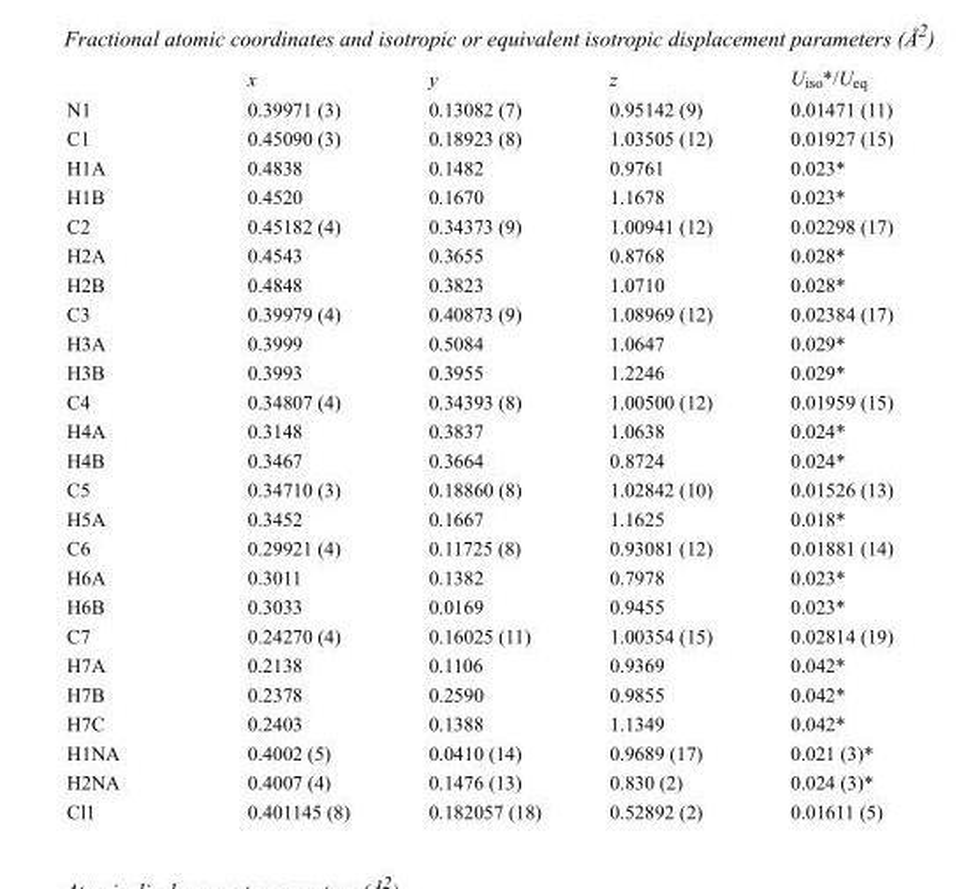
<table><thead><tr><td></td><td>x</td><td>y</td><td>z</td><td>U<sub>iso</sub>*/U<sub>eq</sub></td></tr></thead><tbody><tr><td>N1</td><td>0.39971 (3)</td><td>0.13082 (7)</td><td>0.95142 (9)</td><td>0.01471 (11)</td></tr><tr><td>C1</td><td>0.45090 (3)</td><td>0.18923 (8)</td><td>1.03505 (12)</td><td>0.01927 (15)</td></tr><tr><td>H1A</td><td>0.4838</td><td>0.1482</td><td>0.9761</td><td>0.023*</td></tr><tr><td>H1B</td><td>0.4520</td><td>0.1670</td><td>1.1678</td><td>0.023*</td></tr><tr><td>C2</td><td>0.45182 (4)</td><td>0.34373 (9)</td><td>1.00941 (12)</td><td>0.02298 (17)</td></tr><tr><td>H2A</td><td>0.4543</td><td>0.3655</td><td>0.8768</td><td>0.028*</td></tr><tr><td>H2B</td><td>0.4848</td><td>0.3823</td><td>1.0710</td><td>0.028*</td></tr><tr><td>C3</td><td>0.39979 (4)</td><td>0.40873 (9)</td><td>1.08969 (12)</td><td>0.02384 (17)</td></tr><tr><td>H3A</td><td>0.3999</td><td>0.5084</td><td>1.0647</td><td>0.029*</td></tr><tr><td>H3B</td><td>0.3993</td><td>0.3955</td><td>1.2246</td><td>0.029*</td></tr><tr><td>C4</td><td>0.34807 (4)</td><td>0.34393 (8)</td><td>1.00500 (12)</td><td>0.01959 (15)</td></tr><tr><td>H4A</td><td>0.3148</td><td>0.3837</td><td>1.0638</td><td>0.024*</td></tr><tr><td>H4B</td><td>0.3467</td><td>0.3664</td><td>0.8724</td><td>0.024*</td></tr><tr><td>C5</td><td>0.34710 (3)</td><td>0.18860 (8)</td><td>1.02842 (10)</td><td>0.01526 (13)</td></tr><tr><td>H5A</td><td>0.3452</td><td>0.1667</td><td>1.1625</td><td>0.018*</td></tr><tr><td>C6</td><td>0.29921 (4)</td><td>0.11725 (8)</td><td>0.93081 (12)</td><td>0.01881 (14)</td></tr><tr><td>H6A</td><td>0.3011</td><td>0.1382</td><td>0.7978</td><td>0.023*</td></tr><tr><td>H6B</td><td>0.3033</td><td>0.0169</td><td>0.9455</td><td>0.023*</td></tr><tr><td>C7</td><td>0.24270 (4)</td><td>0.16025 (11)</td><td>1.00354 (15)</td><td>0.02814 (19)</td></tr><tr><td>H7A</td><td>0.2138</td><td>0.1106</td><td>0.9369</td><td>0.042*</td></tr><tr><td>H7B</td><td>0.2378</td><td>0.2590</td><td>0.9855</td><td>0.042*</td></tr><tr><td>H7C</td><td>0.2403</td><td>0.1388</td><td>1.1349</td><td>0.042*</td></tr><tr><td>H1NA</td><td>0.4002 (5)</td><td>0.0410 (14)</td><td>0.9689 (17)</td><td>0.021 (3)*</td></tr><tr><td>H2NA</td><td>0.4007 (4)</td><td>0.1476 (13)</td><td>0.830 (2)</td><td>0.024 (3)*</td></tr><tr><td>Cl1</td><td>0.401145 (8)</td><td>0.182057 (18)</td><td>0.52892 (2)</td><td>0.01611 (5)</td></tr></tbody></table>